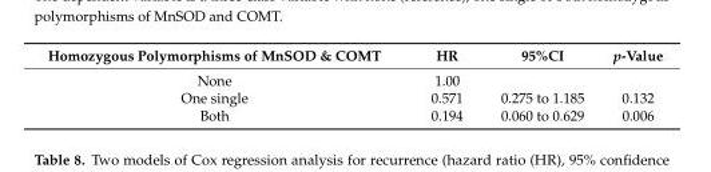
<table><thead><tr><td>Homozygous Polymorphisms of MnSOD &amp; COMT</td><td>HR</td><td>95%CI</td><td>p-Value</td></tr></thead><tbody><tr><td>None</td><td>1.00</td><td></td><td></td></tr><tr><td>One single</td><td>0.571</td><td>0.275 to 1.185</td><td>0.132</td></tr><tr><td>Both</td><td>0.194</td><td>0.060 to 0.629</td><td>0.006</td></tr></tbody></table>